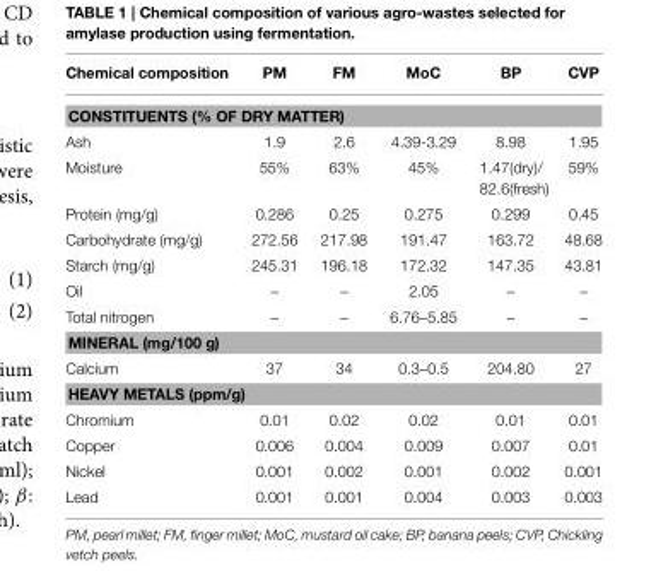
<table><thead><tr><td>Chemical composition</td><td>PM</td><td>FM</td><td>MoC</td><td>BP</td><td>CVP</td></tr></thead><tbody><tr><td colspan="6">CONSTITUENTS (% OF DRY MATTER)</td></tr><tr><td>Ash</td><td>1.9</td><td>2.6</td><td>4.39-3.29</td><td>8.98</td><td>1.95</td></tr><tr><td>Moisture</td><td>55%</td><td>63%</td><td>45%</td><td>1.47(dry)/ 82.6(fresh)</td><td>59%</td></tr><tr><td>Protein (mg/g)</td><td>0.286</td><td>0.25</td><td>0.275</td><td>0.299</td><td>0.45</td></tr><tr><td>Carbohydrate (mg/g)</td><td>272.56</td><td>217.98</td><td>191.47</td><td>163.72</td><td>48.68</td></tr><tr><td>Starch (mg/g)</td><td>245.31</td><td>196.18</td><td>172.32</td><td>147.35</td><td>43.81</td></tr><tr><td>Oil</td><td>–</td><td>–</td><td>2.05</td><td>–</td><td>–</td></tr><tr><td>Total nitrogen</td><td>–</td><td>–</td><td>6.76–5.85</td><td>–</td><td>–</td></tr><tr><td colspan="6">MINERAL (mg/100 g)</td></tr><tr><td>Calcium</td><td>37</td><td>34</td><td>0.3–0.5</td><td>204.80</td><td>27</td></tr><tr><td colspan="6">HEAVY METALS (ppm/g)</td></tr><tr><td>Chromium</td><td>0.01</td><td>0.02</td><td>0.02</td><td>0.01</td><td>0.01</td></tr><tr><td>Copper</td><td>0.006</td><td>0.004</td><td>0.009</td><td>0.007</td><td>0.01</td></tr><tr><td>Nickel</td><td>0.001</td><td>0.002</td><td>0.001</td><td>0.002</td><td>0.001</td></tr><tr><td>Lead</td><td>0.001</td><td>0.001</td><td>0.004</td><td>0.003</td><td>0.003</td></tr></tbody></table>